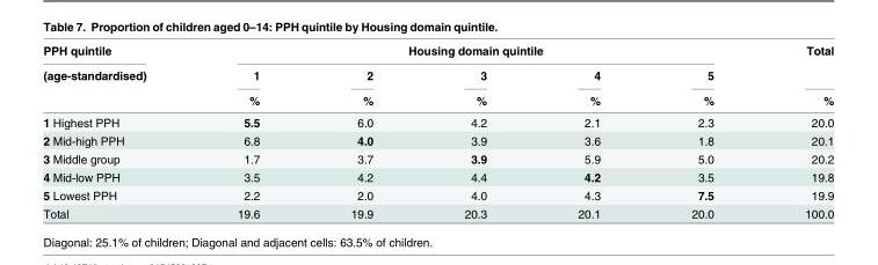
<table><thead><tr><td rowspan="3">PPH quintile (age-standardised)</td><td colspan="5">Housing domain quintile</td><td rowspan="3">Total %</td></tr><tr><td rowspan="2">1 %</td><td rowspan="2">2 %</td><td rowspan="2">3 %</td><td rowspan="2">4 %</td><td rowspan="2">5 %</td></tr><tr></tr></thead><tbody><tr><td>1 Highest PPH</td><td>5.5</td><td>6.0</td><td>4.2</td><td>2.1</td><td>2.3</td><td>20.0</td></tr><tr><td>2 Mid-high PPH</td><td>6.8</td><td>4.0</td><td>3.9</td><td>3.6</td><td>1.8</td><td>20.1</td></tr><tr><td>3 Middle group</td><td>1.7</td><td>3.7</td><td>3.9</td><td>5.9</td><td>5.0</td><td>20.2</td></tr><tr><td>4 Mid-low PPH</td><td>3.5</td><td>4.2</td><td>4.4</td><td>4.2</td><td>3.5</td><td>19.8</td></tr><tr><td>5 Lowest PPH</td><td>2.2</td><td>2.0</td><td>4.0</td><td>4.3</td><td>7.5</td><td>19.9</td></tr><tr><td>Total</td><td>19.6</td><td>19.9</td><td>20.3</td><td>20.1</td><td>20.0</td><td>100.0</td></tr></tbody></table>